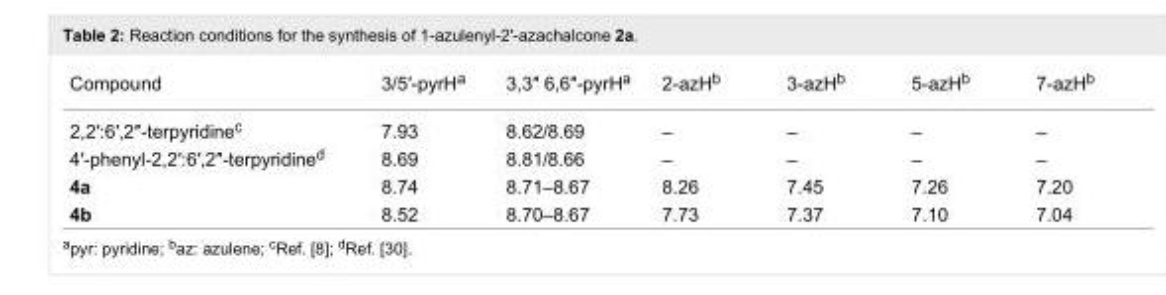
<table><tbody><tr><td>Compound</td><td>3/5′-pyrH<sup>a</sup></td><td>3,3″ 6,6″-pyrH<sup>a</sup></td><td>2-azH<sup>b</sup></td><td>3-azH<sup>b</sup></td><td>5-azH<sup>b</sup></td><td>7-azH<sup>b</sup></td></tr><tr><td>2,2′:6′,2″-terpyridine<sup>c</sup></td><td>7.93</td><td>8.62/8.69</td><td>–</td><td>–</td><td>–</td><td>–</td></tr><tr><td>4′-phenyl-2,2′:6′,2″-terpyridine<sup>d</sup></td><td>8.69</td><td>8.81/8.66</td><td>–</td><td>–</td><td>–</td><td>–</td></tr><tr><td>4a</td><td>8.74</td><td>8.71–8.67</td><td>8.26</td><td>7.45</td><td>7.26</td><td>7.20</td></tr><tr><td>4b</td><td>8.52</td><td>8.70–8.67</td><td>7.73</td><td>7.37</td><td>7.10</td><td>7.04</td></tr></tbody></table>